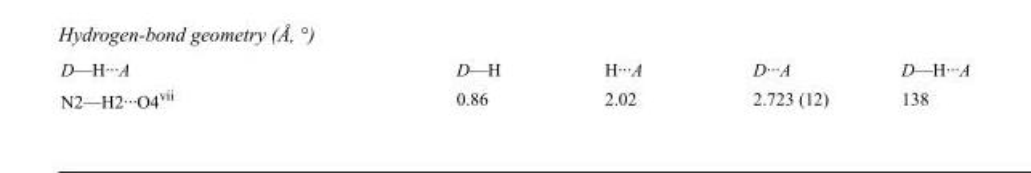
<table><tbody><tr><td>D—H···A</td><td>D—H</td><td>H···A</td><td>D···A</td><td>D—H···A</td></tr><tr><td>N2—H2···O4<sup>vii</sup></td><td>0.86</td><td>2.02</td><td>2.723 (12)</td><td>138</td></tr></tbody></table>